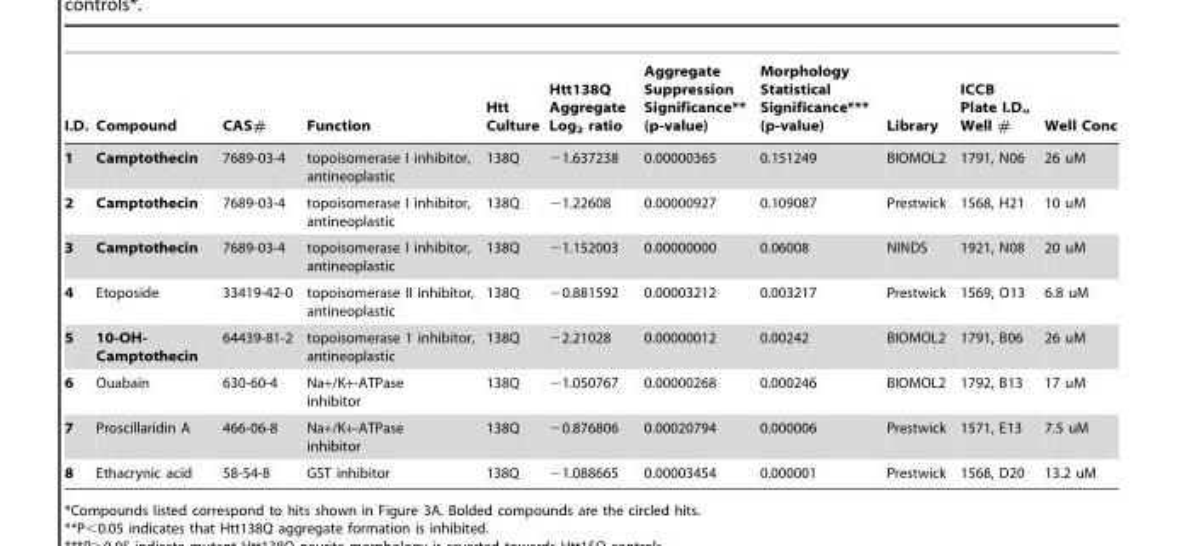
<table><thead><tr><td>I.D.</td><td>Compound</td><td>CAS#</td><td>Function</td><td>Htt Culture</td><td>Htt138Q Aggregate Log<sub>2</sub> ratio</td><td>Aggregate Suppression Significance** (p-value)</td><td>Morphology Statistical Significance*** (p-value)</td><td>Library</td><td>ICCB Plate I.D., Well #</td><td>Well Conc</td></tr></thead><tbody><tr><td>1</td><td>Camptothecin</td><td>7689-03-4</td><td>topoisomerase I inhibitor, antineoplastic</td><td>138Q</td><td>−1.637238</td><td>0.00000365</td><td>0.151249</td><td>BIOMOL2</td><td>1791, N06</td><td>26 uM</td></tr><tr><td>2</td><td>Camptothecin</td><td>7689-03-4</td><td>topoisomerase I inhibitor, antineoplastic</td><td>138Q</td><td>−1.22608</td><td>0.00000927</td><td>0.109087</td><td>Prestwick</td><td>1568, H21</td><td>10 uM</td></tr><tr><td>3</td><td>Camptothecin</td><td>7689-03-4</td><td>topoisomerase I inhibitor, antineoplastic</td><td>138Q</td><td>−1.152003</td><td>0.00000000</td><td>0.06008</td><td>NINDS</td><td>1921, N08</td><td>20 uM</td></tr><tr><td>4</td><td>Etoposide</td><td>33419-42-0</td><td>topoisomerase II inhibitor, antineoplastic</td><td>138Q</td><td>−0.881592</td><td>0.00003212</td><td>0.003217</td><td>Prestwick</td><td>1569, O13</td><td>6.8 uM</td></tr><tr><td>5</td><td>10-OH- Camptothecin</td><td>64439-81-2</td><td>topoisomerase 1 inhibitor, antineoplastic</td><td>138Q</td><td>−2.21028</td><td>0.00000012</td><td>0.00242</td><td>BIOMOL2</td><td>1791, B06</td><td>26 uM</td></tr><tr><td>6</td><td>Ouabain</td><td>630-60-4</td><td>Na+/K+-ATPase inhibitor</td><td>138Q</td><td>−1.050767</td><td>0.00000268</td><td>0.000246</td><td>BIOMOL2</td><td>1792, B13</td><td>17 uM</td></tr><tr><td>7</td><td>Proscillaridin A</td><td>466-06-8</td><td>Na+/K+-ATPase inhibitor</td><td>138Q</td><td>−0.876806</td><td>0.00020794</td><td>0.000006</td><td>Prestwick</td><td>1571, E13</td><td>7.5 uM</td></tr><tr><td>8</td><td>Ethacrynic acid</td><td>58-54-8</td><td>GST inhibitor</td><td>138Q</td><td>−1.088665</td><td>0.00003454</td><td>0.000001</td><td>Prestwick</td><td>1568, D20</td><td>13.2 uM</td></tr></tbody></table>